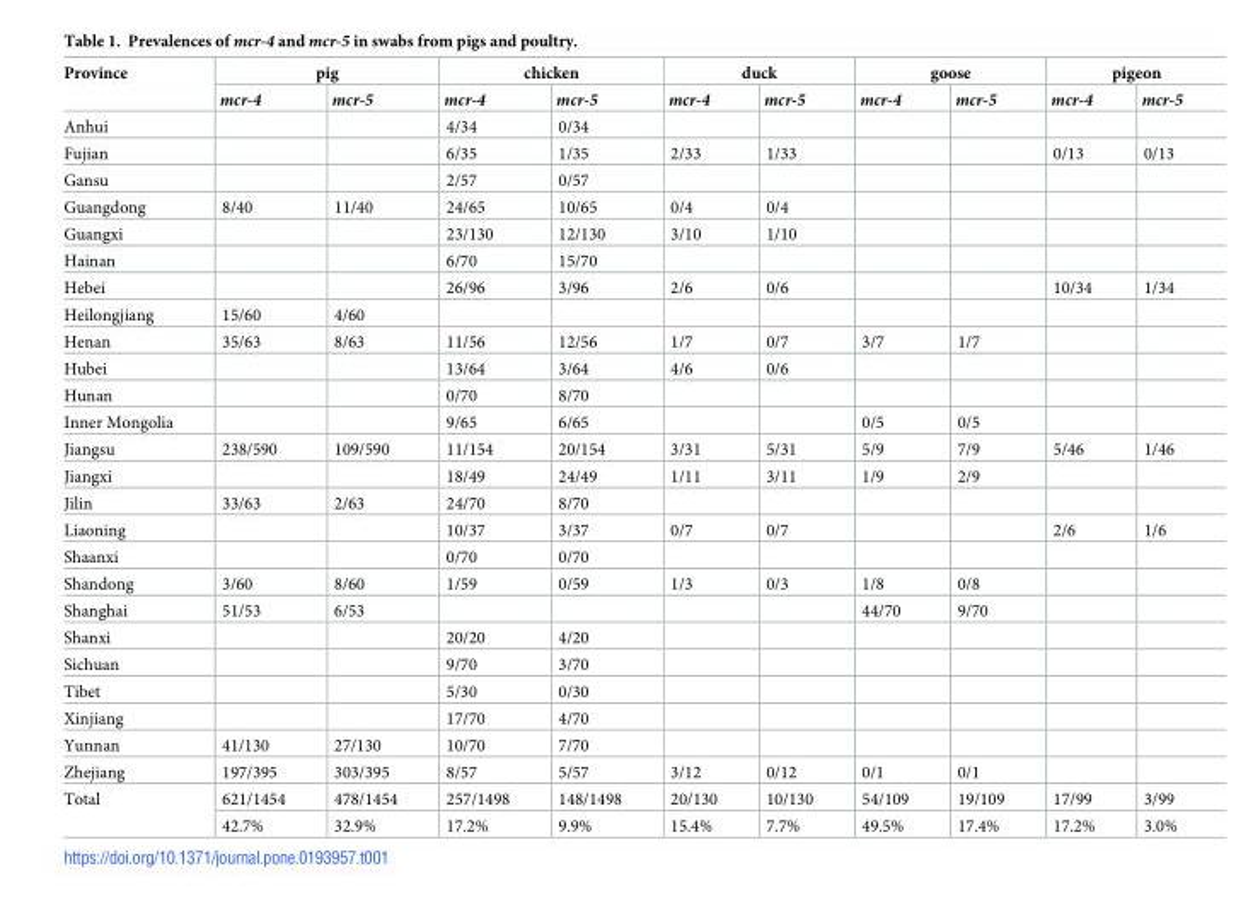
<table><thead><tr><td rowspan="2">Province</td><td colspan="2">pig</td><td colspan="2">chicken</td><td colspan="2">duck</td><td colspan="2">goose</td><td colspan="2">pigeon</td></tr><tr><td>mcr-4</td><td>mcr-5</td><td>mcr-4</td><td>mcr-5</td><td>mcr-4</td><td>mcr-5</td><td>mcr-4</td><td>mcr-5</td><td>mcr-4</td><td>mcr-5</td></tr></thead><tbody><tr><td>Anhui</td><td></td><td></td><td>4/34</td><td>0/34</td><td></td><td></td><td></td><td></td><td></td><td></td></tr><tr><td>Fujian</td><td></td><td></td><td>6/35</td><td>1/35</td><td>2/33</td><td>1/33</td><td></td><td></td><td>0/13</td><td>0/13</td></tr><tr><td>Gansu</td><td></td><td></td><td>2/57</td><td>0/57</td><td></td><td></td><td></td><td></td><td></td><td></td></tr><tr><td>Guangdong</td><td>8/40</td><td>11/40</td><td>24/65</td><td>10/65</td><td>0/4</td><td>0/4</td><td></td><td></td><td></td><td></td></tr><tr><td>Guangxi</td><td></td><td></td><td>23/130</td><td>12/130</td><td>3/10</td><td>1/10</td><td></td><td></td><td></td><td></td></tr><tr><td>Hainan</td><td></td><td></td><td>6/70</td><td>15/70</td><td></td><td></td><td></td><td></td><td></td><td></td></tr><tr><td>Hebei</td><td></td><td></td><td>26/96</td><td>3/96</td><td>2/6</td><td>0/6</td><td></td><td></td><td>10/34</td><td>1/34</td></tr><tr><td>Heilongjiang</td><td>15/60</td><td>4/60</td><td></td><td></td><td></td><td></td><td></td><td></td><td></td><td></td></tr><tr><td>Henan</td><td>35/63</td><td>8/63</td><td>11/56</td><td>12/56</td><td>1/7</td><td>0/7</td><td>3/7</td><td>1/7</td><td></td><td></td></tr><tr><td>Hubei</td><td></td><td></td><td>13/64</td><td>3/64</td><td>4/6</td><td>0/6</td><td></td><td></td><td></td><td></td></tr><tr><td>Hunan</td><td></td><td></td><td>0/70</td><td>8/70</td><td></td><td></td><td></td><td></td><td></td><td></td></tr><tr><td>Inner Mongolia</td><td></td><td></td><td>9/65</td><td>6/65</td><td></td><td></td><td>0/5</td><td>0/5</td><td></td><td></td></tr><tr><td>Jiangsu</td><td>238/590</td><td>109/590</td><td>11/154</td><td>20/154</td><td>3/31</td><td>5/31</td><td>5/9</td><td>7/9</td><td>5/46</td><td>1/46</td></tr><tr><td>Jiangxi</td><td></td><td></td><td>18/49</td><td>24/49</td><td>1/11</td><td>3/11</td><td>1/9</td><td>2/9</td><td></td><td></td></tr><tr><td>Jilin</td><td>33/63</td><td>2/63</td><td>24/70</td><td>8/70</td><td></td><td></td><td></td><td></td><td></td><td></td></tr><tr><td>Liaoning</td><td></td><td></td><td>10/37</td><td>3/37</td><td>0/7</td><td>0/7</td><td></td><td></td><td>2/6</td><td>1/6</td></tr><tr><td>Shaanxi</td><td></td><td></td><td>0/70</td><td>0/70</td><td></td><td></td><td></td><td></td><td></td><td></td></tr><tr><td>Shandong</td><td>3/60</td><td>8/60</td><td>1/59</td><td>0/59</td><td>1/3</td><td>0/3</td><td>1/8</td><td>0/8</td><td></td><td></td></tr><tr><td>Shanghai</td><td>51/53</td><td>6/53</td><td></td><td></td><td></td><td></td><td>44/70</td><td>9/70</td><td></td><td></td></tr><tr><td>Shanxi</td><td></td><td></td><td>20/20</td><td>4/20</td><td></td><td></td><td></td><td></td><td></td><td></td></tr><tr><td>Sichuan</td><td></td><td></td><td>9/70</td><td>3/70</td><td></td><td></td><td></td><td></td><td></td><td></td></tr><tr><td>Tibet</td><td></td><td></td><td>5/30</td><td>0/30</td><td></td><td></td><td></td><td></td><td></td><td></td></tr><tr><td>Xinjiang</td><td></td><td></td><td>17/70</td><td>4/70</td><td></td><td></td><td></td><td></td><td></td><td></td></tr><tr><td>Yunnan</td><td>41/130</td><td>27/130</td><td>10/70</td><td>7/70</td><td></td><td></td><td></td><td></td><td></td><td></td></tr><tr><td>Zhejiang</td><td>197/395</td><td>303/395</td><td>8/57</td><td>5/57</td><td>3/12</td><td>0/12</td><td>0/1</td><td>0/1</td><td></td><td></td></tr><tr><td rowspan="2">Total</td><td>621/1454</td><td>478/1454</td><td>257/1498</td><td>148/1498</td><td>20/130</td><td>10/130</td><td>54/109</td><td>19/109</td><td>17/99</td><td>3/99</td></tr><tr><td>42.7%</td><td>32.9%</td><td>17.2%</td><td>9.9%</td><td>15.4%</td><td>7.7%</td><td>49.5%</td><td>17.4%</td><td>17.2%</td><td>3.0%</td></tr></tbody></table>